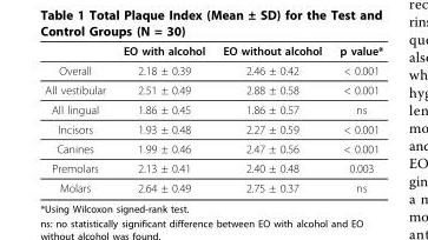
<table><thead><tr><td></td><td>EO with alcohol</td><td>EO without alcohol</td><td>p value*</td></tr></thead><tbody><tr><td>Overall</td><td>2.18 ± 0.39</td><td>2.46 ± 0.42</td><td>&lt; 0.001</td></tr><tr><td>All vestibular</td><td>2.51 ± 0.49</td><td>2.88 ± 0.58</td><td>&lt; 0.001</td></tr><tr><td>All lingual</td><td>1.86 ± 0.45</td><td>1.86 ± 0.57</td><td>ns</td></tr><tr><td>Incisors</td><td>1.93 ± 0.48</td><td>2.27 ± 0.59</td><td>&lt; 0.001</td></tr><tr><td>Canines</td><td>1.99 ± 0.46</td><td>2.47 ± 0.56</td><td>&lt; 0.001</td></tr><tr><td>Premolars</td><td>2.13 ± 0.41</td><td>2.40 ± 0.48</td><td>0.003</td></tr><tr><td>Molars</td><td>2.64 ± 0.49</td><td>2.75 ± 0.37</td><td>ns</td></tr></tbody></table>